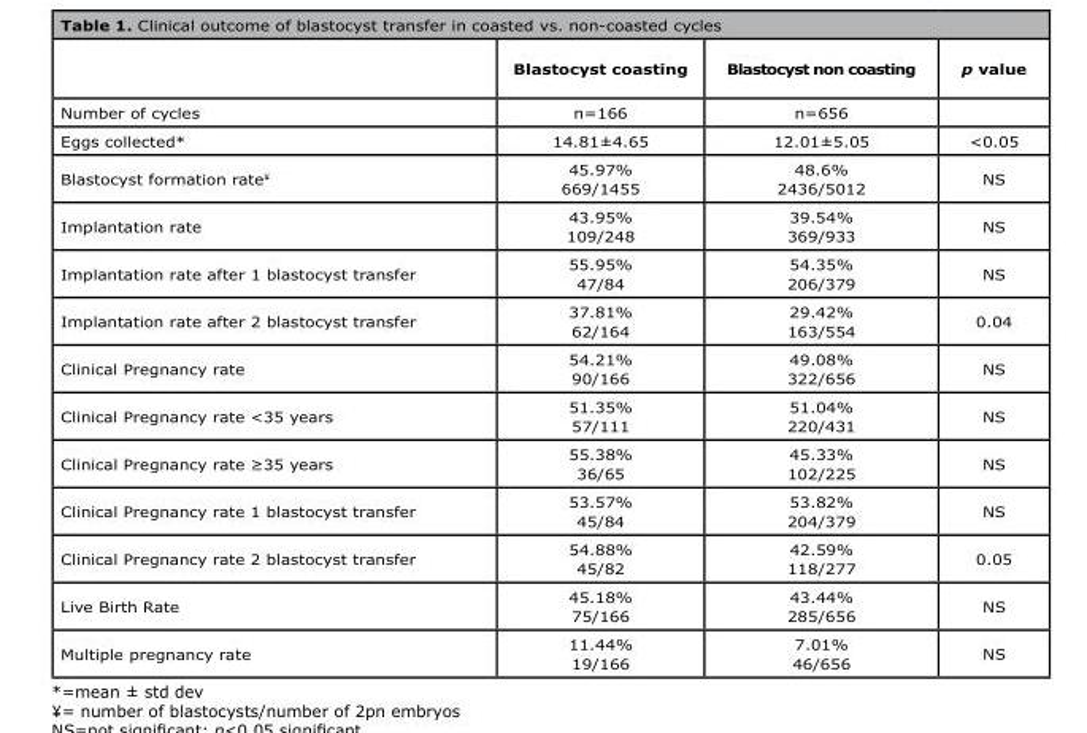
<table><thead><tr><td></td><td>Blastocyst coasting</td><td>Blastocyst non coasting</td><td>p value</td></tr></thead><tbody><tr><td>Number of cycles</td><td>n=166</td><td>n=656</td><td></td></tr><tr><td>Eggs collected*</td><td>14.81±4.65</td><td>12.01±5.05</td><td>&lt;0.05</td></tr><tr><td>Blastocyst formation rate<sup>¥</sup></td><td>45.97% 669/1455</td><td>48.6% 2436/5012</td><td>NS</td></tr><tr><td>Implantation rate</td><td>43.95% 109/248</td><td>39.54% 369/933</td><td>NS</td></tr><tr><td>Implantation rate after 1 blastocyst transfer</td><td>55.95% 47/84</td><td>54.35% 206/379</td><td>NS</td></tr><tr><td>Implantation rate after 2 blastocyst transfer</td><td>37.81% 62/164</td><td>29.42% 163/554</td><td>0.04</td></tr><tr><td>Clinical Pregnancy rate</td><td>54.21% 90/166</td><td>49.08% 322/656</td><td>NS</td></tr><tr><td>Clinical Pregnancy rate &lt;35 years</td><td>51.35% 57/111</td><td>51.04% 220/431</td><td>NS</td></tr><tr><td>Clinical Pregnancy rate ≥35 years</td><td>55.38% 36/65</td><td>45.33% 102/225</td><td>NS</td></tr><tr><td>Clinical Pregnancy rate 1 blastocyst transfer</td><td>53.57% 45/84</td><td>53.82% 204/379</td><td>NS</td></tr><tr><td>Clinical Pregnancy rate 2 blastocyst transfer</td><td>54.88% 45/82</td><td>42.59% 118/277</td><td>0.05</td></tr><tr><td>Live Birth Rate</td><td>45.18% 75/166</td><td>43.44% 285/656</td><td>NS</td></tr><tr><td>Multiple pregnancy rate</td><td>11.44% 19/166</td><td>7.01% 46/656</td><td>NS</td></tr></tbody></table>